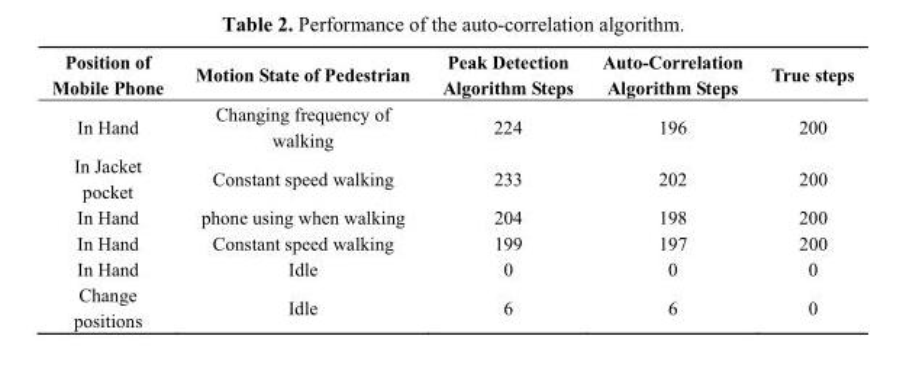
<table><thead><tr><td>Position of Mobile Phone</td><td>Motion State of Pedestrian</td><td>Peak Detection Algorithm Steps</td><td>Auto-Correlation Algorithm Steps</td><td>True steps</td></tr></thead><tbody><tr><td>In Hand</td><td>Changing frequency of walking</td><td>224</td><td>196</td><td>200</td></tr><tr><td>In Jacket pocket</td><td>Constant speed walking</td><td>233</td><td>202</td><td>200</td></tr><tr><td>In Hand</td><td>phone using when walking</td><td>204</td><td>198</td><td>200</td></tr><tr><td>In Hand</td><td>Constant speed walking</td><td>199</td><td>197</td><td>200</td></tr><tr><td>In Hand</td><td>Idle</td><td>0</td><td>0</td><td>0</td></tr><tr><td>Change positions</td><td>Idle</td><td>6</td><td>6</td><td>0</td></tr></tbody></table>